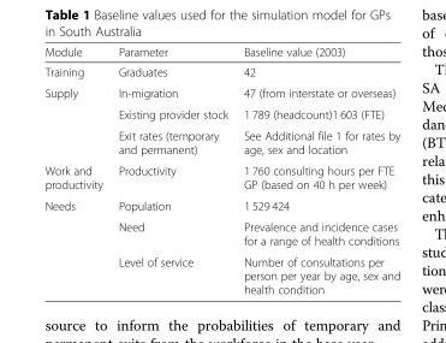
<table><thead><tr><td>Module</td><td>Parameter</td><td>Baseline value (2003)</td></tr></thead><tbody><tr><td>Training</td><td>Graduates</td><td>42</td></tr><tr><td rowspan="3">Supply</td><td>In-migration</td><td>47 (from interstate or overseas)</td></tr><tr><td>Existing provider stock</td><td>1 789 (headcount)1 603 (FTE)</td></tr><tr><td>Exit rates (temporary and permanent)</td><td>See Additional file 1 for rates by age, sex and location</td></tr><tr><td>Work and productivity</td><td>Productivity</td><td>1 760 consulting hours per FTE GP (based on 40 h per week)</td></tr><tr><td rowspan="3">Needs</td><td>Population</td><td>1 529 424</td></tr><tr><td>Need</td><td>Prevalence and incidence cases for a range of health conditions</td></tr><tr><td>Level of service</td><td>Number of consultations per person per year by age, sex and health condition</td></tr></tbody></table>